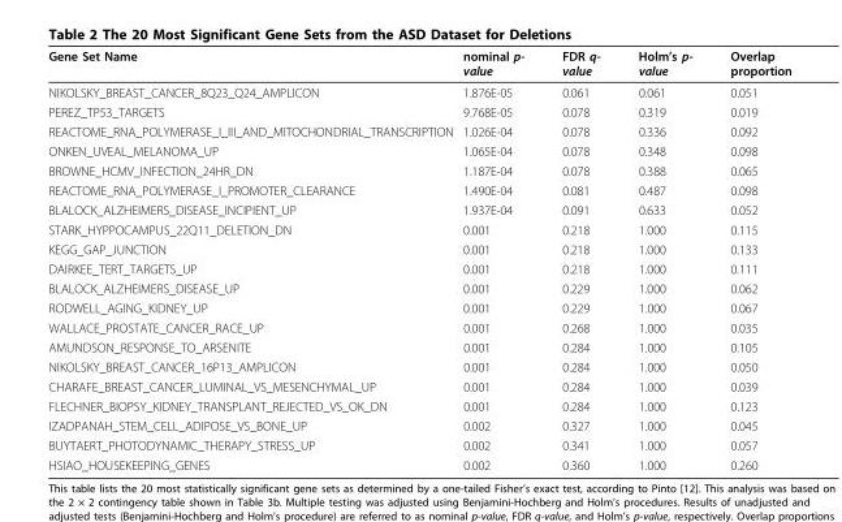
<table><thead><tr><td>Gene Set Name</td><td>nominal p- value</td><td>FDR q- value</td><td>Holm’s p- value</td><td>Overlap proportion</td></tr></thead><tbody><tr><td>NIKOLSKY_BREAST_CANCER_8Q23_Q24_AMPLICON</td><td>1.876E-05</td><td>0.061</td><td>0.061</td><td>0.051</td></tr><tr><td>PEREZ_TP53_TARGETS</td><td>9.768E-05</td><td>0.078</td><td>0.319</td><td>0.019</td></tr><tr><td>REACTOME_RNA_POLYMERASE_I_III_AND_MITOCHONDRIAL_TRANSCRIPTION</td><td>1.026E-04</td><td>0.078</td><td>0.336</td><td>0.092</td></tr><tr><td>ONKEN_UVEAL_MELANOMA_UP</td><td>1.065E-04</td><td>0.078</td><td>0.348</td><td>0.098</td></tr><tr><td>BROWNE_HCMV_INFECTION_24HR_DN</td><td>1.187E-04</td><td>0.078</td><td>0.388</td><td>0.065</td></tr><tr><td>REACTOME_RNA_POLYMERASE_I_PROMOTER_CLEARANCE</td><td>1.490E-04</td><td>0.081</td><td>0.487</td><td>0.098</td></tr><tr><td>BLALOCK_ALZHEIMERS_DISEASE_INCIPIENT_UP</td><td>1.937E-04</td><td>0.091</td><td>0.633</td><td>0.052</td></tr><tr><td>STARK_HYPPOCAMPUS_22Q11_DELETION_DN</td><td>0.001</td><td>0.218</td><td>1.000</td><td>0.115</td></tr><tr><td>KEGG_GAP_JUNCTION</td><td>0.001</td><td>0.218</td><td>1.000</td><td>0.133</td></tr><tr><td>DAIRKEE_TERT_TARGETS_UP</td><td>0.001</td><td>0.218</td><td>1.000</td><td>0.111</td></tr><tr><td>BLALOCK_ALZHEIMERS_DISEASE_UP</td><td>0.001</td><td>0.229</td><td>1.000</td><td>0.062</td></tr><tr><td>RODWELL_AGING_KIDNEY_UP</td><td>0.001</td><td>0.229</td><td>1.000</td><td>0.067</td></tr><tr><td>WALLACE_PROSTATE_CANCER_RACE_UP</td><td>0.001</td><td>0.268</td><td>1.000</td><td>0.035</td></tr><tr><td>AMUNDSON_RESPONSE_TO_ARSENITE</td><td>0.001</td><td>0.284</td><td>1.000</td><td>0.105</td></tr><tr><td>NIKOLSKY_BREAST_CANCER_16P13_AMPLICON</td><td>0.001</td><td>0.284</td><td>1.000</td><td>0.050</td></tr><tr><td>CHARAFE_BREAST_CANCER_LUMINAL_VS_MESENCHYMAL_UP</td><td>0.001</td><td>0.284</td><td>1.000</td><td>0.039</td></tr><tr><td>FLECHNER_BIOPSY_KIDNEY_TRANSPLANT_REJECTED_VS_OK_DN</td><td>0.001</td><td>0.284</td><td>1.000</td><td>0.123</td></tr><tr><td>IZADPANAH_STEM_CELL_ADIPOSE_VS_BONE_UP</td><td>0.002</td><td>0.327</td><td>1.000</td><td>0.045</td></tr><tr><td>BUYTAERT_PHOTODYNAMIC_THERAPY_STRESS_UP</td><td>0.002</td><td>0.341</td><td>1.000</td><td>0.057</td></tr><tr><td>HSIAO_HOUSEKEEPING_GENES</td><td>0.002</td><td>0.360</td><td>1.000</td><td>0.260</td></tr></tbody></table>